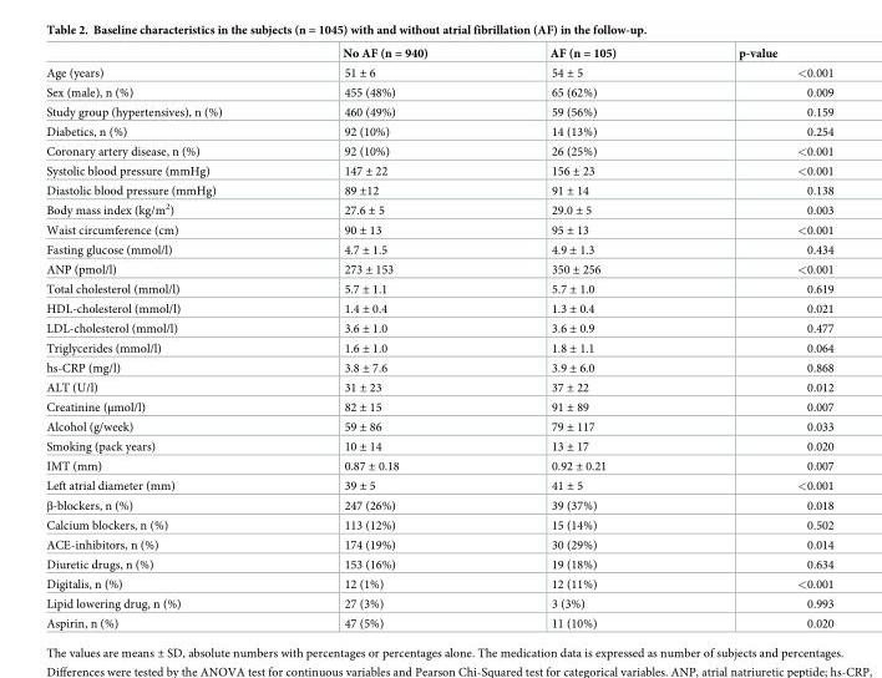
<table><thead><tr><td></td><td>No AF (n = 940)</td><td>AF (n = 105)</td><td>p-value</td></tr></thead><tbody><tr><td>Age (years)</td><td>51 ± 6</td><td>54 ± 5</td><td>&lt;0.001</td></tr><tr><td>Sex (male), n (%)</td><td>455 (48%)</td><td>65 (62%)</td><td>0.009</td></tr><tr><td>Study group (hypertensives), n (%)</td><td>460 (49%)</td><td>59 (56%)</td><td>0.159</td></tr><tr><td>Diabetics, n (%)</td><td>92 (10%)</td><td>14 (13%)</td><td>0.254</td></tr><tr><td>Coronary artery disease, n (%)</td><td>92 (10%)</td><td>26 (25%)</td><td>&lt;0.001</td></tr><tr><td>Systolic blood pressure (mmHg)</td><td>147 ± 22</td><td>156 ± 23</td><td>&lt;0.001</td></tr><tr><td>Diastolic blood pressure (mmHg)</td><td>89 ±12</td><td>91 ± 14</td><td>0.138</td></tr><tr><td>Body mass index (kg/m<sup>2</sup>)</td><td>27.6 ± 5</td><td>29.0 ± 5</td><td>0.003</td></tr><tr><td>Waist circumference (cm)</td><td>90 ± 13</td><td>95 ± 13</td><td>&lt;0.001</td></tr><tr><td>Fasting glucose (mmol/l)</td><td>4.7 ± 1.5</td><td>4.9 ± 1.3</td><td>0.434</td></tr><tr><td>ANP (pmol/l)</td><td>273 ± 153</td><td>350 ± 256</td><td>&lt;0.001</td></tr><tr><td>Total cholesterol (mmol/l)</td><td>5.7 ± 1.1</td><td>5.7 ± 1.0</td><td>0.619</td></tr><tr><td>HDL-cholesterol (mmol/l)</td><td>1.4 ± 0.4</td><td>1.3 ± 0.4</td><td>0.021</td></tr><tr><td>LDL-cholesterol (mmol/l)</td><td>3.6 ± 1.0</td><td>3.6 ± 0.9</td><td>0.477</td></tr><tr><td>Triglycerides (mmol/l)</td><td>1.6 ± 1.0</td><td>1.8 ± 1.1</td><td>0.064</td></tr><tr><td>hs-CRP (mg/l)</td><td>3.8 ± 7.6</td><td>3.9 ± 6.0</td><td>0.868</td></tr><tr><td>ALT (U/l)</td><td>31 ± 23</td><td>37 ± 22</td><td>0.012</td></tr><tr><td>Creatinine (μmol/l)</td><td>82 ± 15</td><td>91 ± 89</td><td>0.007</td></tr><tr><td>Alcohol (g/week)</td><td>59 ± 86</td><td>79 ± 117</td><td>0.033</td></tr><tr><td>Smoking (pack years)</td><td>10 ± 14</td><td>13 ± 17</td><td>0.020</td></tr><tr><td>IMT (mm)</td><td>0.87 ± 0.18</td><td>0.92 ± 0.21</td><td>0.007</td></tr><tr><td>Left atrial diameter (mm)</td><td>39 ± 5</td><td>41 ± 5</td><td>&lt;0.001</td></tr><tr><td>β-blockers, n (%)</td><td>247 (26%)</td><td>39 (37%)</td><td>0.018</td></tr><tr><td>Calcium blockers, n (%)</td><td>113 (12%)</td><td>15 (14%)</td><td>0.502</td></tr><tr><td>ACE-inhibitors, n (%)</td><td>174 (19%)</td><td>30 (29%)</td><td>0.014</td></tr><tr><td>Diuretic drugs, n (%)</td><td>153 (16%)</td><td>19 (18%)</td><td>0.634</td></tr><tr><td>Digitalis, n (%)</td><td>12 (1%)</td><td>12 (11%)</td><td>&lt;0.001</td></tr><tr><td>Lipid lowering drug, n (%)</td><td>27 (3%)</td><td>3 (3%)</td><td>0.993</td></tr><tr><td>Aspirin, n (%)</td><td>47 (5%)</td><td>11 (10%)</td><td>0.020</td></tr></tbody></table>